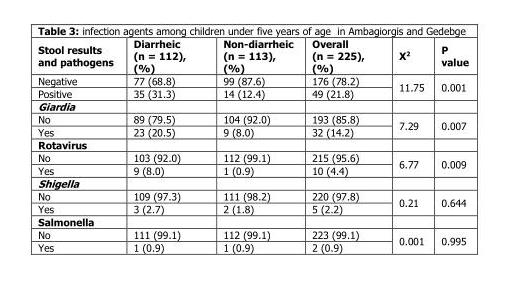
<table><thead><tr><td>Stool results and pathogens</td><td>Diarrheic (n = 112), (%)</td><td>Non-diarrheic (n = 113), (%)</td><td>Overall (n = 225), (%)</td><td>X<sup>2</sup></td><td>P value</td></tr></thead><tbody><tr><td>Negative</td><td>77 (68.8)</td><td>99 (87.6)</td><td>176 (78.2)</td><td rowspan="2">11.75</td><td rowspan="2">0.001</td></tr><tr><td>Positive</td><td>35 (31.3)</td><td>14 (12.4)</td><td>49 (21.8)</td></tr><tr><td colspan="6">Giardia</td></tr><tr><td>No</td><td>89 (79.5)</td><td>104 (92.0)</td><td>193 (85.8)</td><td rowspan="2">7.29</td><td rowspan="2">0.007</td></tr><tr><td>Yes</td><td>23 (20.5)</td><td>9 (8.0)</td><td>32 (14.2)</td></tr><tr><td colspan="6">Rotavirus</td></tr><tr><td>No</td><td>103 (92.0)</td><td>112 (99.1)</td><td>215 (95.6)</td><td rowspan="2">6.77</td><td rowspan="2">0.009</td></tr><tr><td>Yes</td><td>9 (8.0)</td><td>1 (0.9)</td><td>10 (4.4)</td></tr><tr><td colspan="6">Shigella</td></tr><tr><td>No</td><td>109 (97.3)</td><td>111 (98.2)</td><td>220 (97.8)</td><td rowspan="2">0.21</td><td rowspan="2">0.644</td></tr><tr><td>Yes</td><td>3 (2.7)</td><td>2 (1.8)</td><td>5 (2.2)</td></tr><tr><td colspan="6">Salmonella</td></tr><tr><td>No</td><td>111 (99.1)</td><td>112 (99.1)</td><td>223 (99.1)</td><td rowspan="2">0.001</td><td rowspan="2">0.995</td></tr><tr><td>Yes</td><td>1 (0.9)</td><td>1 (0.9)</td><td>2 (0.9)</td></tr></tbody></table>